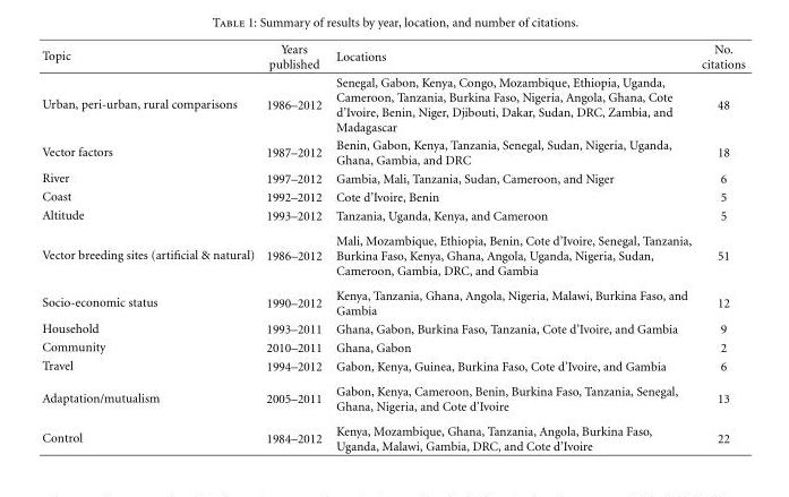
<table><thead><tr><td>Topic</td><td>Years published</td><td>Locations</td><td>No. citations</td></tr></thead><tbody><tr><td>Urban, peri-urban, rural comparisons</td><td>1986–2012</td><td>Senegal, Gabon, Kenya, Congo, Mozambique, Ethiopia, Uganda, Cameroon, Tanzania, Burkina Faso, Nigeria, Angola, Ghana, Cote d’Ivoire, Benin, Niger, Djibouti, Dakar, Sudan, DRC, Zambia, and Madagascar</td><td>48</td></tr><tr><td>Vector factors</td><td>1987–2012</td><td>Benin, Gabon, Kenya, Tanzania, Senegal, Sudan, Nigeria, Uganda, Ghana, Gambia, and DRC</td><td>18</td></tr><tr><td>River</td><td>1997–2012</td><td>Gambia, Mali, Tanzania, Sudan, Cameroon, and Niger</td><td>6</td></tr><tr><td>Coast</td><td>1992–2012</td><td>Cote d’Ivoire, Benin</td><td>5</td></tr><tr><td>Altitude</td><td>1993–2012</td><td>Tanzania, Uganda, Kenya, and Cameroon</td><td>5</td></tr><tr><td>Vector breeding sites (artificial &amp; natural)</td><td>1986–2012</td><td>Mali, Mozambique, Ethiopia, Benin, Cote d’Ivoire, Senegal, Tanzania, Burkina Faso, Kenya, Ghana, Angola, Uganda, Nigeria, Sudan, Cameroon, Gambia, DRC, and Gambia</td><td>51</td></tr><tr><td>Socio-economic status</td><td>1990–2012</td><td>Kenya, Tanzania, Ghana, Angola, Nigeria, Malawi, Burkina Faso, and Gambia</td><td>12</td></tr><tr><td>Household</td><td>1993–2011</td><td>Ghana, Gabon, Burkina Faso, Tanzania, Cote d’Ivoire, and Gambia</td><td>9</td></tr><tr><td>Community</td><td>2010–2011</td><td>Ghana, Gabon</td><td>2</td></tr><tr><td>Travel</td><td>1994–2012</td><td>Gabon, Kenya, Guinea, Burkina Faso, Cote d’Ivoire, and Gambia</td><td>6</td></tr><tr><td>Adaptation/mutualism</td><td>2005–2011</td><td>Gabon, Kenya, Cameroon, Benin, Burkina Faso, Tanzania, Senegal, Ghana, Nigeria, and Cote d’Ivoire</td><td>13</td></tr><tr><td>Control</td><td>1984–2012</td><td>Kenya, Mozambique, Ghana, Tanzania, Angola, Burkina Faso, Uganda, Malawi, Gambia, DRC, and Cote d’Ivoire</td><td>22</td></tr></tbody></table>